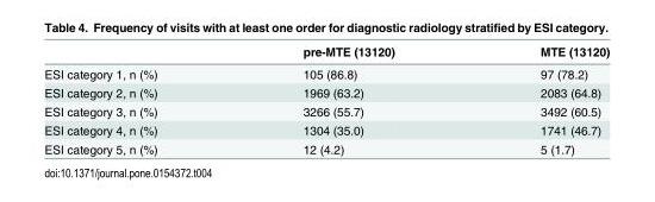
<table><thead><tr><td></td><td>pre-MTE (13120)</td><td>MTE (13120)</td></tr></thead><tbody><tr><td>ESI category 1, n (%)</td><td>105 (86.8)</td><td>97 (78.2)</td></tr><tr><td>ESI category 2, n (%)</td><td>1969 (63.2)</td><td>2083 (64.8)</td></tr><tr><td>ESI category 3, n (%)</td><td>3266 (55.7)</td><td>3492 (60.5)</td></tr><tr><td>ESI category 4, n (%)</td><td>1304 (35.0)</td><td>1741 (46.7)</td></tr><tr><td>ESI category 5, n (%)</td><td>12 (4.2)</td><td>5 (1.7)</td></tr></tbody></table>